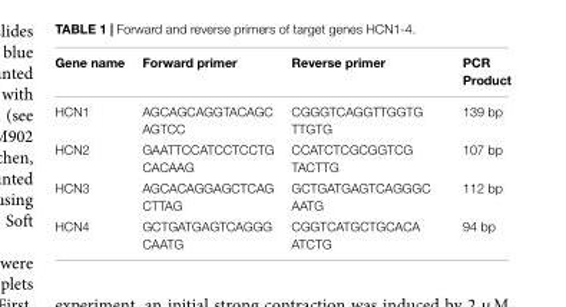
<table><thead><tr><td>Gene name</td><td>Forward primer</td><td>Reverse primer</td><td>PCR Product</td></tr></thead><tbody><tr><td>HCN1</td><td>AGCAGCAGGTACAGC AGTCC</td><td>CGGGTCAGGTTGGTG TTGTG</td><td>139 bp</td></tr><tr><td>HCN2</td><td>GAATTCCATCCTCCTG CACAAG</td><td>CCATCTCGCGGTCG TACTTG</td><td>107 bp</td></tr><tr><td>HCN3</td><td>AGCACAGGAGCTCAG CTTAG</td><td>GCTGATGAGTCAGGGC AATG</td><td>112 bp</td></tr><tr><td>HCN4</td><td>GCTGATGAGTCAGGG CAATG</td><td>CGGTCATGCTGCACA ATCTG</td><td>94 bp</td></tr></tbody></table>